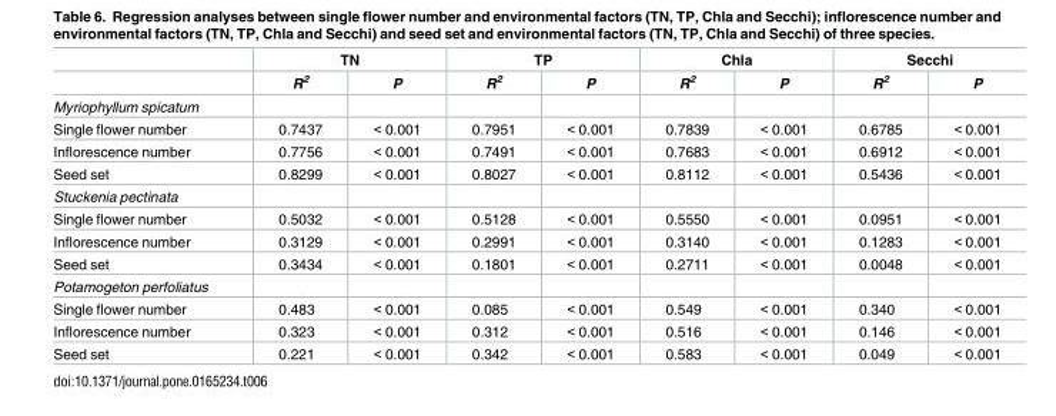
<table><thead><tr><td rowspan="2"></td><td colspan="2">TN</td><td colspan="2">TP</td><td colspan="2">Chla</td><td colspan="2">Secchi</td></tr><tr><td>R<sup>2</sup></td><td>P</td><td>R<sup>2</sup></td><td>P</td><td>R<sup>2</sup></td><td>P</td><td>R<sup>2</sup></td><td>P</td></tr></thead><tbody><tr><td colspan="9">Myriophyllum spicatum</td></tr><tr><td>Single flower number</td><td>0.7437</td><td>&lt; 0.001</td><td>0.7951</td><td>&lt; 0.001</td><td>0.7839</td><td>&lt; 0.001</td><td>0.6785</td><td>&lt; 0.001</td></tr><tr><td>Inflorescence number</td><td>0.7756</td><td>&lt; 0.001</td><td>0.7491</td><td>&lt; 0.001</td><td>0.7683</td><td>&lt; 0.001</td><td>0.6912</td><td>&lt; 0.001</td></tr><tr><td>Seed set</td><td>0.8299</td><td>&lt; 0.001</td><td>0.8027</td><td>&lt; 0.001</td><td>0.8112</td><td>&lt; 0.001</td><td>0.5436</td><td>&lt; 0.001</td></tr><tr><td colspan="9">Stuckenia pectinata</td></tr><tr><td>Single flower number</td><td>0.5032</td><td>&lt; 0.001</td><td>0.5128</td><td>&lt; 0.001</td><td>0.5550</td><td>&lt; 0.001</td><td>0.0951</td><td>&lt; 0.001</td></tr><tr><td>Inflorescence number</td><td>0.3129</td><td>&lt; 0.001</td><td>0.2991</td><td>&lt; 0.001</td><td>0.3140</td><td>&lt; 0.001</td><td>0.1283</td><td>&lt; 0.001</td></tr><tr><td>Seed set</td><td>0.3434</td><td>&lt; 0.001</td><td>0.1801</td><td>&lt; 0.001</td><td>0.2711</td><td>&lt; 0.001</td><td>0.0048</td><td>&lt; 0.001</td></tr><tr><td colspan="9">Potamogeton perfoliatus</td></tr><tr><td>Single flower number</td><td>0.483</td><td>&lt; 0.001</td><td>0.085</td><td>&lt; 0.001</td><td>0.549</td><td>&lt; 0.001</td><td>0.340</td><td>&lt; 0.001</td></tr><tr><td>Inflorescence number</td><td>0.323</td><td>&lt; 0.001</td><td>0.312</td><td>&lt; 0.001</td><td>0.516</td><td>&lt; 0.001</td><td>0.146</td><td>&lt; 0.001</td></tr><tr><td>Seed set</td><td>0.221</td><td>&lt; 0.001</td><td>0.342</td><td>&lt; 0.001</td><td>0.583</td><td>&lt; 0.001</td><td>0.049</td><td>&lt; 0.001</td></tr></tbody></table>